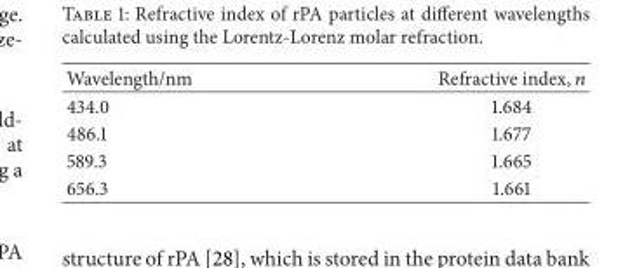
<table><thead><tr><td>Wavelength/nm</td><td>Refractive index,</td></tr></thead><tbody><tr><td>434.0</td><td>1.684</td></tr><tr><td>486.1</td><td>1.677</td></tr><tr><td>589.3</td><td>1.665</td></tr><tr><td>656.3</td><td>1.661</td></tr></tbody></table>